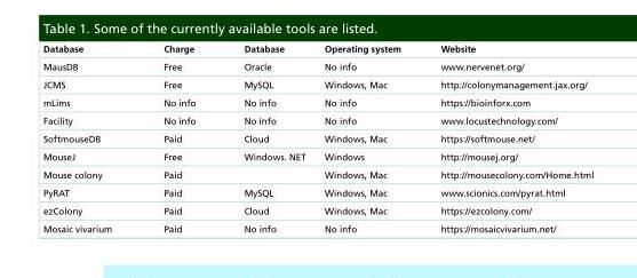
<table><tbody><tr><td>Database</td><td>Charge</td><td>Database</td><td>Operating system</td><td>Website</td></tr><tr><td>MausDB</td><td>Free</td><td>Oracle</td><td>No info</td><td>www.nervenet.org/</td></tr><tr><td>JCMS</td><td>Free</td><td>MySQL</td><td>Windows, Mac</td><td>http://colonymanagement.jax.org/</td></tr><tr><td>mLims</td><td>No info</td><td>No info</td><td>No info</td><td>https://bioinforx.com</td></tr><tr><td>Facility</td><td>No info</td><td>No info</td><td>No info</td><td>www.locustechnology.com/</td></tr><tr><td>SoftmouseDB</td><td>Paid</td><td>Cloud</td><td>Windows, Mac</td><td>https://softmouse.net/</td></tr><tr><td>MouseJ</td><td>Free</td><td>Windows. NET</td><td>Windows</td><td>http://mousej.org/</td></tr><tr><td>Mouse colony</td><td>Paid</td><td></td><td>Windows, Mac</td><td>http://mousecolony.com/Home.html</td></tr><tr><td>PyRAT</td><td>Paid</td><td>MySQL</td><td>Windows, Mac</td><td>www.scionics.com/pyrat.html</td></tr><tr><td>ezColony</td><td>Paid</td><td>Cloud</td><td>Windows, Mac</td><td>https://ezcolony.com/</td></tr><tr><td>Mosaic vivarium</td><td>Paid</td><td>No info</td><td>No info</td><td>https://mosaicvivarium.net/</td></tr></tbody></table>